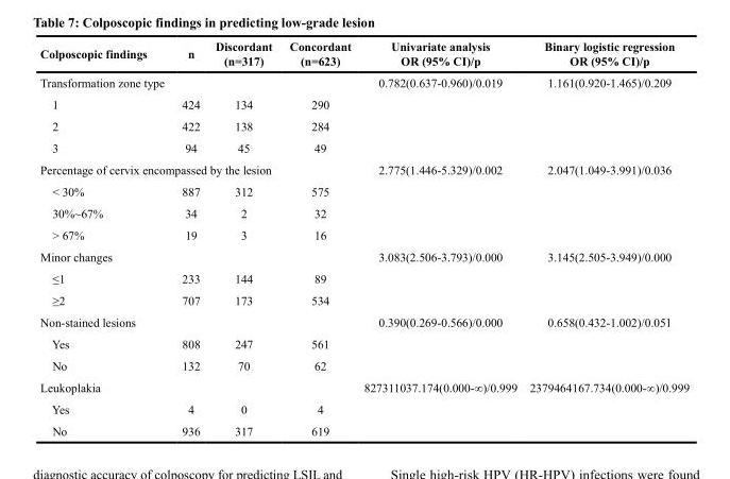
<table><thead><tr><td>Colposcopic findings</td><td>n</td><td>Discordant (n=317)</td><td>Concordant (n=623)</td><td>Univariate analysis OR (95% CI)/p</td><td>Binary logistic regression OR (95% CI)/p</td></tr></thead><tbody><tr><td colspan="4">Transformation zone type</td><td>0.782(0.637-0.960)/0.019</td><td>1.161(0.920-1.465)/0.209</td></tr><tr><td>1</td><td>424</td><td>134</td><td>290</td><td></td><td></td></tr><tr><td>2</td><td>422</td><td>138</td><td>284</td><td></td><td></td></tr><tr><td>3</td><td>94</td><td>45</td><td>49</td><td></td><td></td></tr><tr><td colspan="4">Percentage of cervix encompassed by the lesion</td><td>2.775(1.446-5.329)/0.002</td><td>2.047(1.049-3.991)/0.036</td></tr><tr><td>&lt; 30%</td><td>887</td><td>312</td><td>575</td><td></td><td></td></tr><tr><td>30%~67%</td><td>34</td><td>2</td><td>32</td><td></td><td></td></tr><tr><td>&gt; 67%</td><td>19</td><td>3</td><td>16</td><td></td><td></td></tr><tr><td colspan="4">Minor changes</td><td>3.083(2.506-3.793)/0.000</td><td>3.145(2.505-3.949)/0.000</td></tr><tr><td>≤1</td><td>233</td><td>144</td><td>89</td><td></td><td></td></tr><tr><td>≥2</td><td>707</td><td>173</td><td>534</td><td></td><td></td></tr><tr><td colspan="4">Non-stained lesions</td><td>0.390(0.269-0.566)/0.000</td><td>0.658(0.432-1.002)/0.051</td></tr><tr><td>Yes</td><td>808</td><td>247</td><td>561</td><td></td><td></td></tr><tr><td>No</td><td>132</td><td>70</td><td>62</td><td></td><td></td></tr><tr><td colspan="4">Leukoplakia</td><td>827311037.174(0.000-∞)/0.999</td><td>2379464167.734(0.000-∞)/0.999</td></tr><tr><td>Yes</td><td>4</td><td>0</td><td>4</td><td></td><td></td></tr><tr><td>No</td><td>936</td><td>317</td><td>619</td><td></td><td></td></tr></tbody></table>